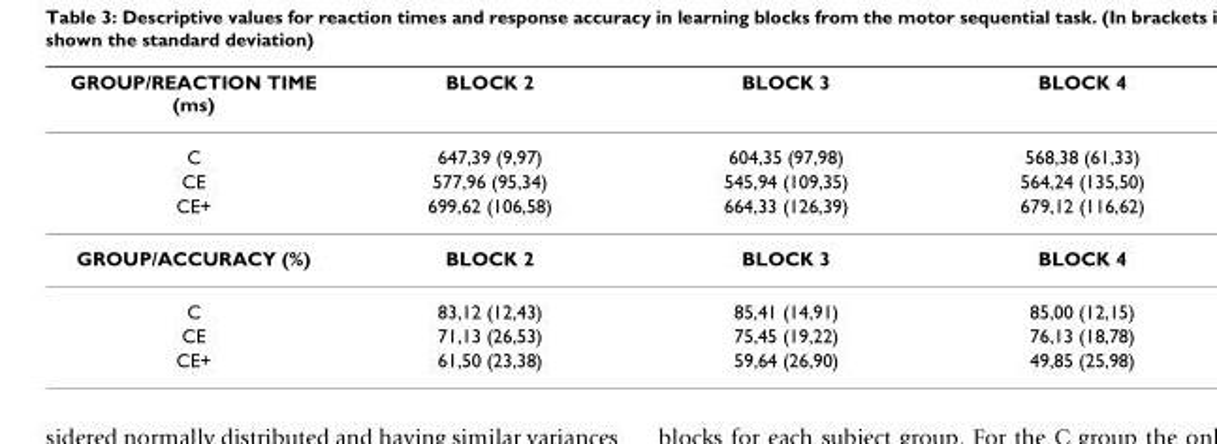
<table><thead><tr><td>GROUP/REACTION TIME (ms)</td><td>BLOCK 2</td><td>BLOCK 3</td><td>BLOCK 4</td></tr></thead><tbody><tr><td>C</td><td>647,39 (9,97)</td><td>604,35 (97,98)</td><td>568,38 (61,33)</td></tr><tr><td>CE</td><td>577,96 (95,34)</td><td>545,94 (109,35)</td><td>564,24 (135,50)</td></tr><tr><td>CE+</td><td>699,62 (106,58)</td><td>664,33 (126,39)</td><td>679,12 (116,62)</td></tr><tr><td>GROUP/ACCURACY (%)</td><td>BLOCK 2</td><td>BLOCK 3</td><td>BLOCK 4</td></tr><tr><td>C</td><td>83,12 (12,43)</td><td>85,41 (14,91)</td><td>85,00 (12,15)</td></tr><tr><td>CE</td><td>71,13 (26,53)</td><td>75,45 (19,22)</td><td>76,13 (18,78)</td></tr><tr><td>CE+</td><td>61,50 (23,38)</td><td>59,64 (26,90)</td><td>49,85 (25,98)</td></tr></tbody></table>